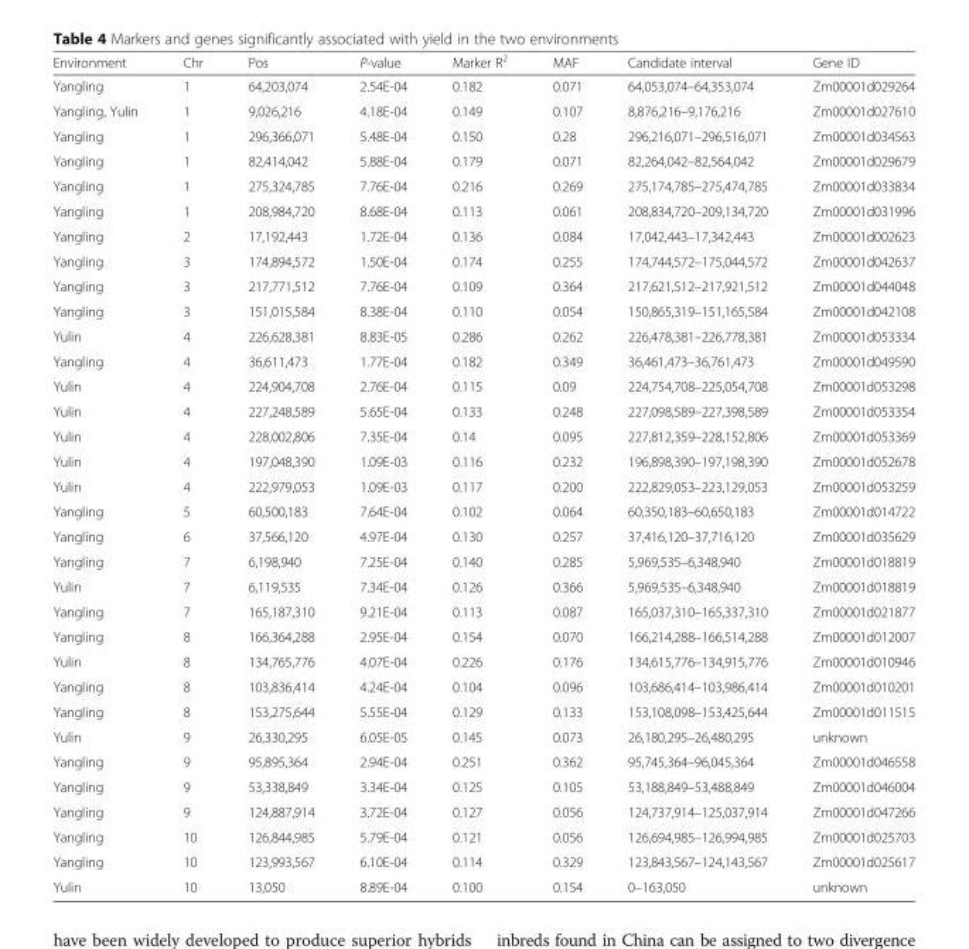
<table><thead><tr><td>Environment</td><td>Chr</td><td>Pos</td><td>P-value</td><td>Marker R<sup>2</sup></td><td>MAF</td><td>Candidate interval</td><td>Gene ID</td></tr></thead><tbody><tr><td>Yangling</td><td>1</td><td>64,203,074</td><td>2.54E-04</td><td>0.182</td><td>0.071</td><td>64,053,074–64,353,074</td><td>Zm00001d029264</td></tr><tr><td>Yangling, Yulin</td><td>1</td><td>9,026,216</td><td>4.18E-04</td><td>0.149</td><td>0.107</td><td>8,876,216–9,176,216</td><td>Zm00001d027610</td></tr><tr><td>Yangling</td><td>1</td><td>296,366,071</td><td>5.48E-04</td><td>0.150</td><td>0.28</td><td>296,216,071–296,516,071</td><td>Zm00001d034563</td></tr><tr><td>Yangling</td><td>1</td><td>82,414,042</td><td>5.88E-04</td><td>0.179</td><td>0.071</td><td>82,264,042–82,564,042</td><td>Zm00001d029679</td></tr><tr><td>Yangling</td><td>1</td><td>275,324,785</td><td>7.76E-04</td><td>0.216</td><td>0.269</td><td>275,174,785–275,474,785</td><td>Zm00001d033834</td></tr><tr><td>Yangling</td><td>1</td><td>208,984,720</td><td>8.68E-04</td><td>0.113</td><td>0.061</td><td>208,834,720–209,134,720</td><td>Zm00001d031996</td></tr><tr><td>Yangling</td><td>2</td><td>17,192,443</td><td>1.72E-04</td><td>0.136</td><td>0.084</td><td>17,042,443–17,342,443</td><td>Zm00001d002623</td></tr><tr><td>Yangling</td><td>3</td><td>174,894,572</td><td>1.50E-04</td><td>0.174</td><td>0.255</td><td>174,744,572–175,044,572</td><td>Zm00001d042637</td></tr><tr><td>Yangling</td><td>3</td><td>217,771,512</td><td>7.76E-04</td><td>0.109</td><td>0.364</td><td>217,621,512–217,921,512</td><td>Zm00001d044048</td></tr><tr><td>Yangling</td><td>3</td><td>151,015,584</td><td>8.38E-04</td><td>0.110</td><td>0.054</td><td>150,865,319–151,165,584</td><td>Zm00001d042108</td></tr><tr><td>Yulin</td><td>4</td><td>226,628,381</td><td>8.83E-05</td><td>0.286</td><td>0.262</td><td>226,478,381–226,778,381</td><td>Zm00001d053334</td></tr><tr><td>Yangling</td><td>4</td><td>36,611,473</td><td>1.77E-04</td><td>0.182</td><td>0.349</td><td>36,461,473–36,761,473</td><td>Zm00001d049590</td></tr><tr><td>Yulin</td><td>4</td><td>224,904,708</td><td>2.76E-04</td><td>0.115</td><td>0.09</td><td>224,754,708–225,054,708</td><td>Zm00001d053298</td></tr><tr><td>Yulin</td><td>4</td><td>227,248,589</td><td>5.65E-04</td><td>0.133</td><td>0.248</td><td>227,098,589–227,398,589</td><td>Zm00001d053354</td></tr><tr><td>Yulin</td><td>4</td><td>228,002,806</td><td>7.35E-04</td><td>0.14</td><td>0.095</td><td>227,812,359–228,152,806</td><td>Zm00001d053369</td></tr><tr><td>Yulin</td><td>4</td><td>197,048,390</td><td>1.09E-03</td><td>0.116</td><td>0.232</td><td>196,898,390–197,198,390</td><td>Zm00001d052678</td></tr><tr><td>Yulin</td><td>4</td><td>222,979,053</td><td>1.09E-03</td><td>0.117</td><td>0.200</td><td>222,829,053–223,129,053</td><td>Zm00001d053259</td></tr><tr><td>Yangling</td><td>5</td><td>60,500,183</td><td>7.64E-04</td><td>0.102</td><td>0.064</td><td>60,350,183–60,650,183</td><td>Zm00001d014722</td></tr><tr><td>Yangling</td><td>6</td><td>37,566,120</td><td>4.97E-04</td><td>0.130</td><td>0.257</td><td>37,416,120–37,716,120</td><td>Zm00001d035629</td></tr><tr><td>Yangling</td><td>7</td><td>6,198,940</td><td>7.25E-04</td><td>0.140</td><td>0.285</td><td>5,969,535–6,348,940</td><td>Zm00001d018819</td></tr><tr><td>Yulin</td><td>7</td><td>6,119,535</td><td>7.34E-04</td><td>0.126</td><td>0.366</td><td>5,969,535–6,348,940</td><td>Zm00001d018819</td></tr><tr><td>Yangling</td><td>7</td><td>165,187,310</td><td>9.21E-04</td><td>0.113</td><td>0.087</td><td>165,037,310–165,337,310</td><td>Zm00001d021877</td></tr><tr><td>Yangling</td><td>8</td><td>166,364,288</td><td>2.95E-04</td><td>0.154</td><td>0.070</td><td>166,214,288–166,514,288</td><td>Zm00001d012007</td></tr><tr><td>Yulin</td><td>8</td><td>134,765,776</td><td>4.07E-04</td><td>0.226</td><td>0.176</td><td>134,615,776–134,915,776</td><td>Zm00001d010946</td></tr><tr><td>Yangling</td><td>8</td><td>103,836,414</td><td>4.24E-04</td><td>0.104</td><td>0.096</td><td>103,686,414–103,986,414</td><td>Zm00001d010201</td></tr><tr><td>Yangling</td><td>8</td><td>153,275,644</td><td>5.55E-04</td><td>0.129</td><td>0.133</td><td>153,108,098–153,425,644</td><td>Zm00001d011515</td></tr><tr><td>Yulin</td><td>9</td><td>26,330,295</td><td>6.05E-05</td><td>0.145</td><td>0.073</td><td>26,180,295–26,480,295</td><td>unknown</td></tr><tr><td>Yangling</td><td>9</td><td>95,895,364</td><td>2.94E-04</td><td>0.251</td><td>0.362</td><td>95,745,364–96,045,364</td><td>Zm00001d046558</td></tr><tr><td>Yangling</td><td>9</td><td>53,338,849</td><td>3.34E-04</td><td>0.125</td><td>0.105</td><td>53,188,849–53,488,849</td><td>Zm00001d046004</td></tr><tr><td>Yangling</td><td>9</td><td>124,887,914</td><td>3.72E-04</td><td>0.127</td><td>0.056</td><td>124,737,914–125,037,914</td><td>Zm00001d047266</td></tr><tr><td>Yangling</td><td>10</td><td>126,844,985</td><td>5.79E-04</td><td>0.121</td><td>0.056</td><td>126,694,985–126,994,985</td><td>Zm00001d025703</td></tr><tr><td>Yangling</td><td>10</td><td>123,993,567</td><td>6.10E-04</td><td>0.114</td><td>0.329</td><td>123,843,567–124,143,567</td><td>Zm00001d025617</td></tr><tr><td>Yulin</td><td>10</td><td>13,050</td><td>8.89E-04</td><td>0.100</td><td>0.154</td><td>0–163,050</td><td>unknown</td></tr></tbody></table>